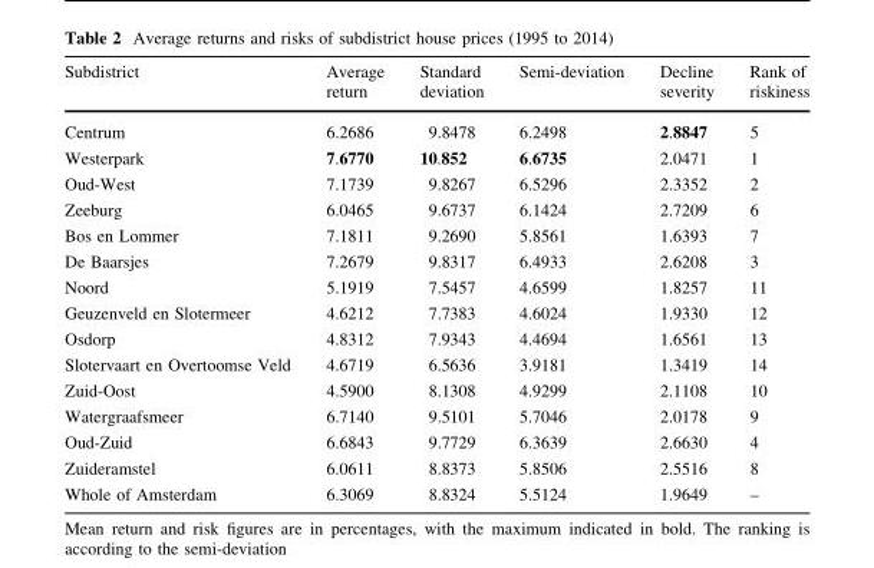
<table><thead><tr><td>Subdistrict</td><td>Average return</td><td>Standard deviation</td><td>Semi-deviation</td><td>Decline severity</td><td>Rank of riskiness</td></tr></thead><tbody><tr><td>Centrum</td><td>6.2686</td><td>9.8478</td><td>6.2498</td><td>2.8847</td><td>5</td></tr><tr><td>Westerpark</td><td>7.6770</td><td>10.852</td><td>6.6735</td><td>2.0471</td><td>1</td></tr><tr><td>Oud-West</td><td>7.1739</td><td>9.8267</td><td>6.5296</td><td>2.3352</td><td>2</td></tr><tr><td>Zeeburg</td><td>6.0465</td><td>9.6737</td><td>6.1424</td><td>2.7209</td><td>6</td></tr><tr><td>Bos en Lommer</td><td>7.1811</td><td>9.2690</td><td>5.8561</td><td>1.6393</td><td>7</td></tr><tr><td>De Baarsjes</td><td>7.2679</td><td>9.8317</td><td>6.4933</td><td>2.6208</td><td>3</td></tr><tr><td>Noord</td><td>5.1919</td><td>7.5457</td><td>4.6599</td><td>1.8257</td><td>11</td></tr><tr><td>Geuzenveld en Slotermeer</td><td>4.6212</td><td>7.7383</td><td>4.6024</td><td>1.9330</td><td>12</td></tr><tr><td>Osdorp</td><td>4.8312</td><td>7.9343</td><td>4.4694</td><td>1.6561</td><td>13</td></tr><tr><td>Slotervaart en Overtoomse Veld</td><td>4.6719</td><td>6.5636</td><td>3.9181</td><td>1.3419</td><td>14</td></tr><tr><td>Zuid-Oost</td><td>4.5900</td><td>8.1308</td><td>4.9299</td><td>2.1108</td><td>10</td></tr><tr><td>Watergraafsmeer</td><td>6.7140</td><td>9.5101</td><td>5.7046</td><td>2.0178</td><td>9</td></tr><tr><td>Oud-Zuid</td><td>6.6843</td><td>9.7729</td><td>6.3639</td><td>2.6630</td><td>4</td></tr><tr><td>Zuideramstel</td><td>6.0611</td><td>8.8373</td><td>5.8506</td><td>2.5516</td><td>8</td></tr><tr><td>Whole of Amsterdam</td><td>6.3069</td><td>8.8324</td><td>5.5124</td><td>1.9649</td><td>–</td></tr></tbody></table>